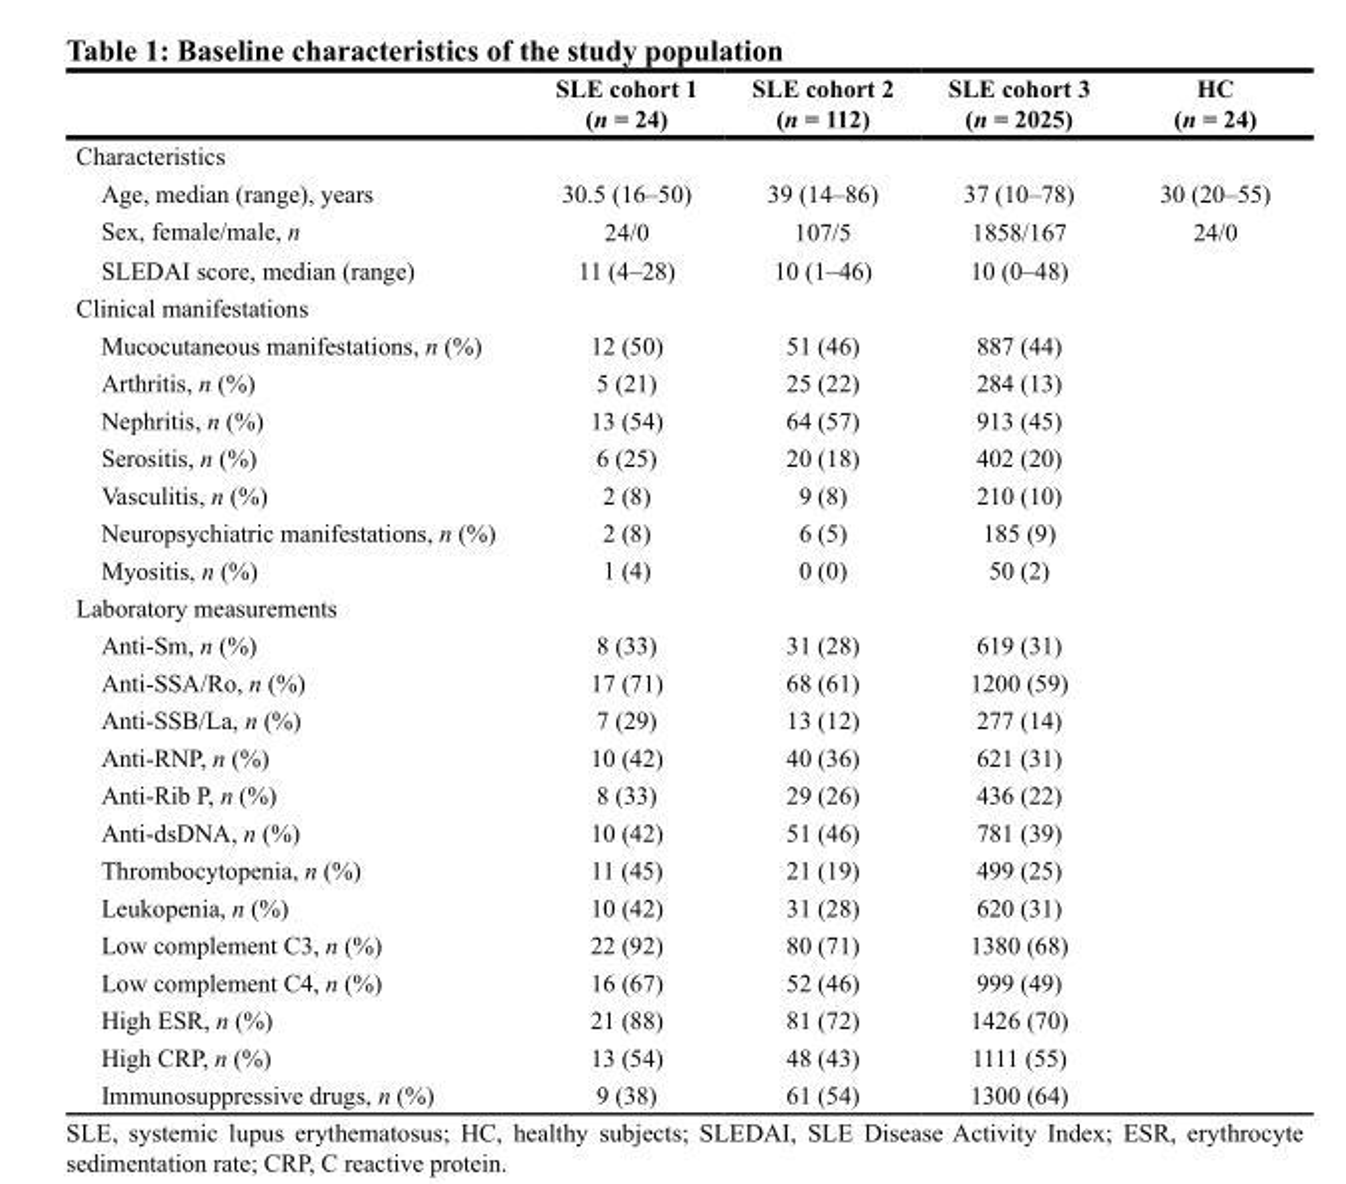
<table><thead><tr><td></td><td>SLE cohort 1 (n = 24)</td><td>SLE cohort 2 (n = 112)</td><td>SLE cohort 3 (n = 2025)</td><td>HC (n = 24)</td></tr></thead><tbody><tr><td colspan="5">Characteristics</td></tr><tr><td>Age, median (range), years</td><td>30.5 (16–50)</td><td>39 (14–86)</td><td>37 (10–78)</td><td>30 (20–55)</td></tr><tr><td>Sex, female/male, n</td><td>24/0</td><td>107/5</td><td>1858/167</td><td>24/0</td></tr><tr><td>SLEDAI score, median (range)</td><td>11 (4–28)</td><td>10 (1–46)</td><td>10 (0–48)</td><td></td></tr><tr><td colspan="5">Clinical manifestations</td></tr><tr><td>Mucocutaneous manifestations, n (%)</td><td>12 (50)</td><td>51 (46)</td><td>887 (44)</td><td></td></tr><tr><td>Arthritis, n (%)</td><td>5 (21)</td><td>25 (22)</td><td>284 (13)</td><td></td></tr><tr><td>Nephritis, n (%)</td><td>13 (54)</td><td>64 (57)</td><td>913 (45)</td><td></td></tr><tr><td>Serositis, n (%)</td><td>6 (25)</td><td>20 (18)</td><td>402 (20)</td><td></td></tr><tr><td>Vasculitis, n (%)</td><td>2 (8)</td><td>9 (8)</td><td>210 (10)</td><td></td></tr><tr><td>Neuropsychiatric manifestations, n (%)</td><td>2 (8)</td><td>6 (5)</td><td>185 (9)</td><td></td></tr><tr><td>Myositis, n (%)</td><td>1 (4)</td><td>0 (0)</td><td>50 (2)</td><td></td></tr><tr><td colspan="5">Laboratory measurements</td></tr><tr><td>Anti-Sm, n (%)</td><td>8 (33)</td><td>31 (28)</td><td>619 (31)</td><td></td></tr><tr><td>Anti-SSA/Ro, n (%)</td><td>17 (71)</td><td>68 (61)</td><td>1200 (59)</td><td></td></tr><tr><td>Anti-SSB/La, n (%)</td><td>7 (29)</td><td>13 (12)</td><td>277 (14)</td><td></td></tr><tr><td>Anti-RNP, n (%)</td><td>10 (42)</td><td>40 (36)</td><td>621 (31)</td><td></td></tr><tr><td>Anti-Rib P, n (%)</td><td>8 (33)</td><td>29 (26)</td><td>436 (22)</td><td></td></tr><tr><td>Anti-dsDNA, n (%)</td><td>10 (42)</td><td>51 (46)</td><td>781 (39)</td><td></td></tr><tr><td>Thrombocytopenia, n (%)</td><td>11 (45)</td><td>21 (19)</td><td>499 (25)</td><td></td></tr><tr><td>Leukopenia, n (%)</td><td>10 (42)</td><td>31 (28)</td><td>620 (31)</td><td></td></tr><tr><td>Low complement C3, n (%)</td><td>22 (92)</td><td>80 (71)</td><td>1380 (68)</td><td></td></tr><tr><td>Low complement C4, n (%)</td><td>16 (67)</td><td>52 (46)</td><td>999 (49)</td><td></td></tr><tr><td>High ESR, n (%)</td><td>21 (88)</td><td>81 (72)</td><td>1426 (70)</td><td></td></tr><tr><td>High CRP, n (%)</td><td>13 (54)</td><td>48 (43)</td><td>1111 (55)</td><td></td></tr><tr><td>Immunosuppressive drugs, n (%)</td><td>9 (38)</td><td>61 (54)</td><td>1300 (64)</td><td></td></tr></tbody></table>